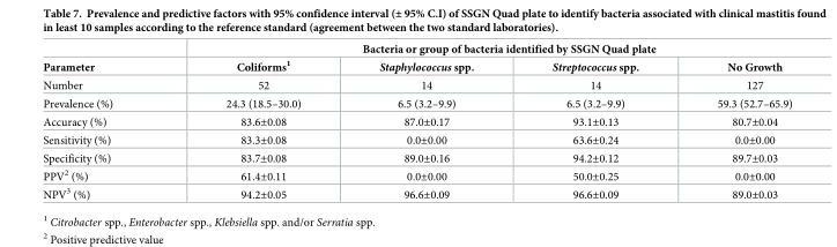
<table><thead><tr><td rowspan="2">Parameter</td><td colspan="4">Bacteria or group of bacteria identified by SSGN Quad plate</td></tr><tr><td>Coliforms<sup>1</sup></td><td>Staphylococcus spp.</td><td>Streptococcus spp.</td><td>No Growth</td></tr></thead><tbody><tr><td>Number</td><td>52</td><td>14</td><td>14</td><td>127</td></tr><tr><td>Prevalence (%)</td><td>24.3 (18.5–30.0)</td><td>6.5 (3.2–9.9)</td><td>6.5 (3.2–9.9)</td><td>59.3 (52.7–65.9)</td></tr><tr><td>Accuracy (%)</td><td>83.6±0.08</td><td>87.0±0.17</td><td>93.1±0.13</td><td>80.7±0.04</td></tr><tr><td>Sensitivity (%)</td><td>83.3±0.08</td><td>0.0±0.00</td><td>63.6±0.24</td><td>0.0±0.00</td></tr><tr><td>Specificity (%)</td><td>83.7±0.08</td><td>89.0±0.16</td><td>94.2±0.12</td><td>89.7±0.03</td></tr><tr><td>PPV<sup>2</sup> (%)</td><td>61.4±0.11</td><td>0.0±0.00</td><td>50.0±0.25</td><td>0.0±0.00</td></tr><tr><td>NPV<sup>3</sup> (%)</td><td>94.2±0.05</td><td>96.6±0.09</td><td>96.6±0.09</td><td>89.0±0.03</td></tr></tbody></table>